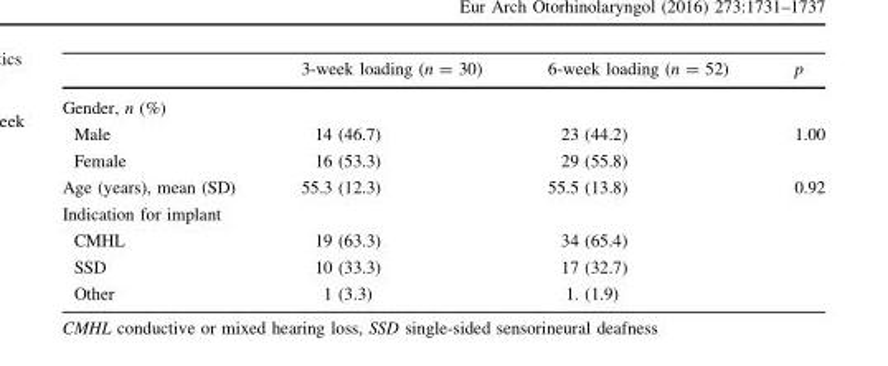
<table><thead><tr><td></td><td>3-week loading (n = 30)</td><td>6-week loading (n = 52)</td><td>p</td></tr></thead><tbody><tr><td colspan="4">Gender, n (%)</td></tr><tr><td>Male</td><td>14 (46.7)</td><td>23 (44.2)</td><td rowspan="2">1.00</td></tr><tr><td>Female</td><td>16 (53.3)</td><td>29 (55.8)</td></tr><tr><td>Age (years), mean (SD)</td><td>55.3 (12.3)</td><td>55.5 (13.8)</td><td>0.92</td></tr><tr><td colspan="4">Indication for implant</td></tr><tr><td>CMHL</td><td>19 (63.3)</td><td>34 (65.4)</td><td rowspan="3"></td></tr><tr><td>SSD</td><td>10 (33.3)</td><td>17 (32.7)</td></tr><tr><td>Other</td><td>1 (3.3)</td><td>1. (1.9)</td></tr></tbody></table>